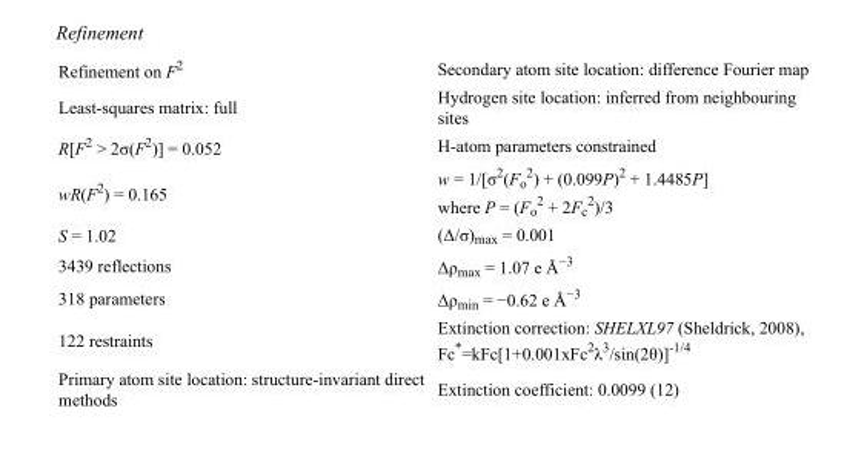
<table><tbody><tr><td>Refinement on F<sup>2</sup></td><td>Secondary atom site location: difference Fourier map</td></tr><tr><td>Least-squares matrix: full</td><td>Hydrogen site location: inferred from neighbouring sites</td></tr><tr><td>R[F<sup>2</sup> &gt; 2σ(F<sup>2</sup>)] = 0.052</td><td>H-atom parameters constrained</td></tr><tr><td>wR(F<sup>2</sup>) = 0.165</td><td>w = 1/[σ<sup>2</sup>(F<sub>o</sub> <sup>2</sup>) + (0.099P)<sup>2</sup> + 1.4485P] where P = (F<sub>o</sub> <sup>2</sup> + 2F<sub>c</sub> <sup>2</sup>)/3</td></tr><tr><td>S = 1.02</td><td>(Δ/σ)<sub>max</sub> = 0.001</td></tr><tr><td>3439 reflections</td><td>Δρ<sub>max</sub> = 1.07 e Å<sup>−3</sup></td></tr><tr><td>318 parameters</td><td>Δρ<sub>min</sub> = −0.62 e Å<sup>−3</sup></td></tr><tr><td>122 restraints</td><td>Extinction correction: SHELXL97 (Sheldrick, 2008), Fc*=kFc[1+0.001xFc<sup>2</sup>λ<sup>3</sup>/sin(2θ)]<sup>-1/4</sup></td></tr><tr><td>Primary atom site location: structure-invariant direct methods</td><td>Extinction coefficient: 0.0099 (12)</td></tr></tbody></table>